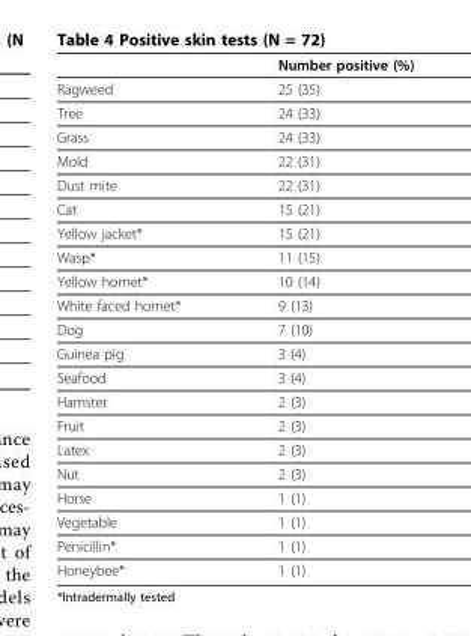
<table><thead><tr><td></td><td>Number positive (%)</td></tr></thead><tbody><tr><td>Ragweed</td><td>25 (35)</td></tr><tr><td>Tree</td><td>24 (33)</td></tr><tr><td>Grass</td><td>24 (33)</td></tr><tr><td>Mold</td><td>22 (31)</td></tr><tr><td>Dust mite</td><td>22 (31)</td></tr><tr><td>Cat</td><td>15 (21)</td></tr><tr><td>Yellow jacket*</td><td>15 (21)</td></tr><tr><td>Wasp*</td><td>11 (15)</td></tr><tr><td>Yellow hornet*</td><td>10 (14)</td></tr><tr><td>White faced hornet*</td><td>9 (13)</td></tr><tr><td>Dog</td><td>7 (10)</td></tr><tr><td>Guinea pig</td><td>3 (4)</td></tr><tr><td>Seafood</td><td>3 (4)</td></tr><tr><td>Hamster</td><td>2 (3)</td></tr><tr><td>Fruit</td><td>2 (3)</td></tr><tr><td>Latex</td><td>2 (3)</td></tr><tr><td>Nut</td><td>2 (3)</td></tr><tr><td>Horse</td><td>1 (1)</td></tr><tr><td>Vegetable</td><td>1 (1)</td></tr><tr><td>Penicillin*</td><td>1 (1)</td></tr><tr><td>Honeybee*</td><td>1 (1)</td></tr></tbody></table>